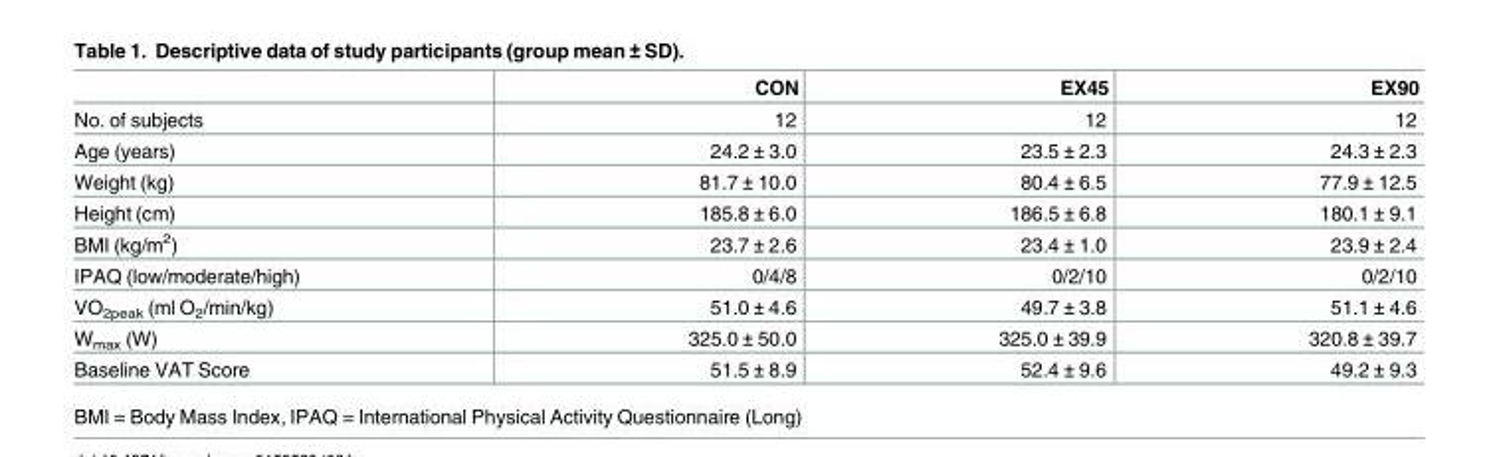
<table><thead><tr><td></td><td>CON</td><td>EX45</td><td>EX90</td></tr></thead><tbody><tr><td>No. of subjects</td><td>12</td><td>12</td><td>12</td></tr><tr><td>Age (years)</td><td>24.2 ± 3.0</td><td>23.5 ± 2.3</td><td>24.3 ± 2.3</td></tr><tr><td>Weight (kg)</td><td>81.7 ± 10.0</td><td>80.4 ± 6.5</td><td>77.9 ± 12.5</td></tr><tr><td>Height (cm)</td><td>185.8 ± 6.0</td><td>186.5 ± 6.8</td><td>180.1 ± 9.1</td></tr><tr><td>BMI (kg/m<sup>2</sup>)</td><td>23.7 ± 2.6</td><td>23.4 ± 1.0</td><td>23.9 ± 2.4</td></tr><tr><td>IPAQ (low/moderate/high)</td><td>0/4/8</td><td>0/2/10</td><td>0/2/10</td></tr><tr><td>VO<sub>2peak</sub> (ml O<sub>2</sub>/min/kg)</td><td>51.0 ± 4.6</td><td>49.7 ± 3.8</td><td>51.1 ± 4.6</td></tr><tr><td>W<sub>max</sub> (W)</td><td>325.0 ± 50.0</td><td>325.0 ± 39.9</td><td>320.8 ± 39.7</td></tr><tr><td>Baseline VAT Score</td><td>51.5 ± 8.9</td><td>52.4 ± 9.6</td><td>49.2 ± 9.3</td></tr></tbody></table>